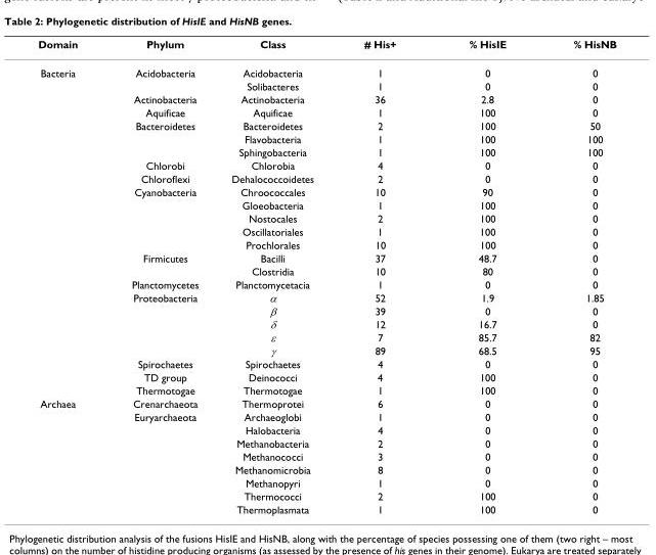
<table><thead><tr><td>Domain</td><td>Phylum</td><td>Class</td><td># His+</td><td>% HisIE</td><td>% HisNB</td></tr></thead><tbody><tr><td rowspan="25">Bacteria</td><td>Acidobacteria</td><td>Acidobacteria</td><td>1</td><td>0</td><td>0</td></tr><tr><td></td><td>Solibacteres</td><td>1</td><td>0</td><td>0</td></tr><tr><td>Actinobacteria</td><td>Actinobacteria</td><td>36</td><td>2.8</td><td>0</td></tr><tr><td>Aquificae</td><td>Aquificae</td><td>1</td><td>100</td><td>0</td></tr><tr><td>Bacteroidetes</td><td>Bacteroidetes</td><td>2</td><td>100</td><td>50</td></tr><tr><td></td><td>Flavobacteria</td><td>1</td><td>100</td><td>100</td></tr><tr><td></td><td>Sphingobacteria</td><td>1</td><td>100</td><td>100</td></tr><tr><td>Chlorobi</td><td>Chlorobia</td><td>4</td><td>0</td><td>0</td></tr><tr><td>Chloroflexi</td><td>Dehalococcoidetes</td><td>2</td><td>0</td><td>0</td></tr><tr><td>Cyanobacteria</td><td>Chroococcales</td><td>10</td><td>90</td><td>0</td></tr><tr><td></td><td>Gloeobacteria</td><td>1</td><td>100</td><td>0</td></tr><tr><td></td><td>Nostocales</td><td>2</td><td>100</td><td>0</td></tr><tr><td></td><td>Oscillatoriales</td><td>1</td><td>100</td><td>0</td></tr><tr><td></td><td>Prochlorales</td><td>10</td><td>100</td><td>0</td></tr><tr><td>Firmicutes</td><td>Bacilli</td><td>37</td><td>48.7</td><td>0</td></tr><tr><td></td><td>Clostridia</td><td>10</td><td>80</td><td>0</td></tr><tr><td>Planctomycetes</td><td>Planctomycetacia</td><td>1</td><td>0</td><td>0</td></tr><tr><td>Proteobacteria</td><td>α</td><td>52</td><td>1.9</td><td>1.85</td></tr><tr><td></td><td>β</td><td>39</td><td>0</td><td>0</td></tr><tr><td></td><td>δ</td><td>12</td><td>16.7</td><td>0</td></tr><tr><td></td><td>ε</td><td>7</td><td>85.7</td><td>82</td></tr><tr><td></td><td>γ</td><td>89</td><td>68.5</td><td>95</td></tr><tr><td>Spirochaetes</td><td>Spirochaetes</td><td>4</td><td>0</td><td>0</td></tr><tr><td>TD group</td><td>Deinococci</td><td>4</td><td>100</td><td>0</td></tr><tr><td>Thermotogae</td><td>Thermotogae</td><td>1</td><td>100</td><td>0</td></tr><tr><td rowspan="9">Archaea</td><td>Crenarchaeota</td><td>Thermoprotei</td><td>6</td><td>0</td><td>0</td></tr><tr><td>Euryarchaeota</td><td>Archaeoglobi</td><td>1</td><td>0</td><td>0</td></tr><tr><td></td><td>Halobacteria</td><td>4</td><td>0</td><td>0</td></tr><tr><td></td><td>Methanobacteria</td><td>2</td><td>0</td><td>0</td></tr><tr><td></td><td>Methanococci</td><td>3</td><td>0</td><td>0</td></tr><tr><td></td><td>Methanomicrobia</td><td>8</td><td>0</td><td>0</td></tr><tr><td></td><td>Methanopyri</td><td>1</td><td>0</td><td>0</td></tr><tr><td></td><td>Thermococci</td><td>2</td><td>100</td><td>0</td></tr><tr><td></td><td>Thermoplasmata</td><td>1</td><td>100</td><td>0</td></tr></tbody></table>